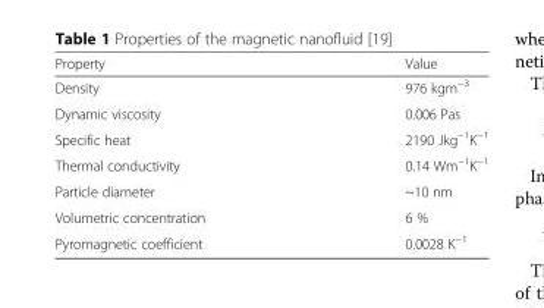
<table><thead><tr><td>Property</td><td>Value</td></tr></thead><tbody><tr><td>Density</td><td>976 kgm<sup>−3</sup></td></tr><tr><td>Dynamic viscosity</td><td>0.006 Pas</td></tr><tr><td>Specific heat</td><td>2190 Jkg<sup>−1</sup>K<sup>−1</sup></td></tr><tr><td>Thermal conductivity</td><td>0.14 Wm<sup>−1</sup>K<sup>−1</sup></td></tr><tr><td>Particle diameter</td><td>~10 nm</td></tr><tr><td>Volumetric concentration</td><td>6 %</td></tr><tr><td>Pyromagnetic coefficient</td><td>0.0028 K<sup>−1</sup></td></tr></tbody></table>